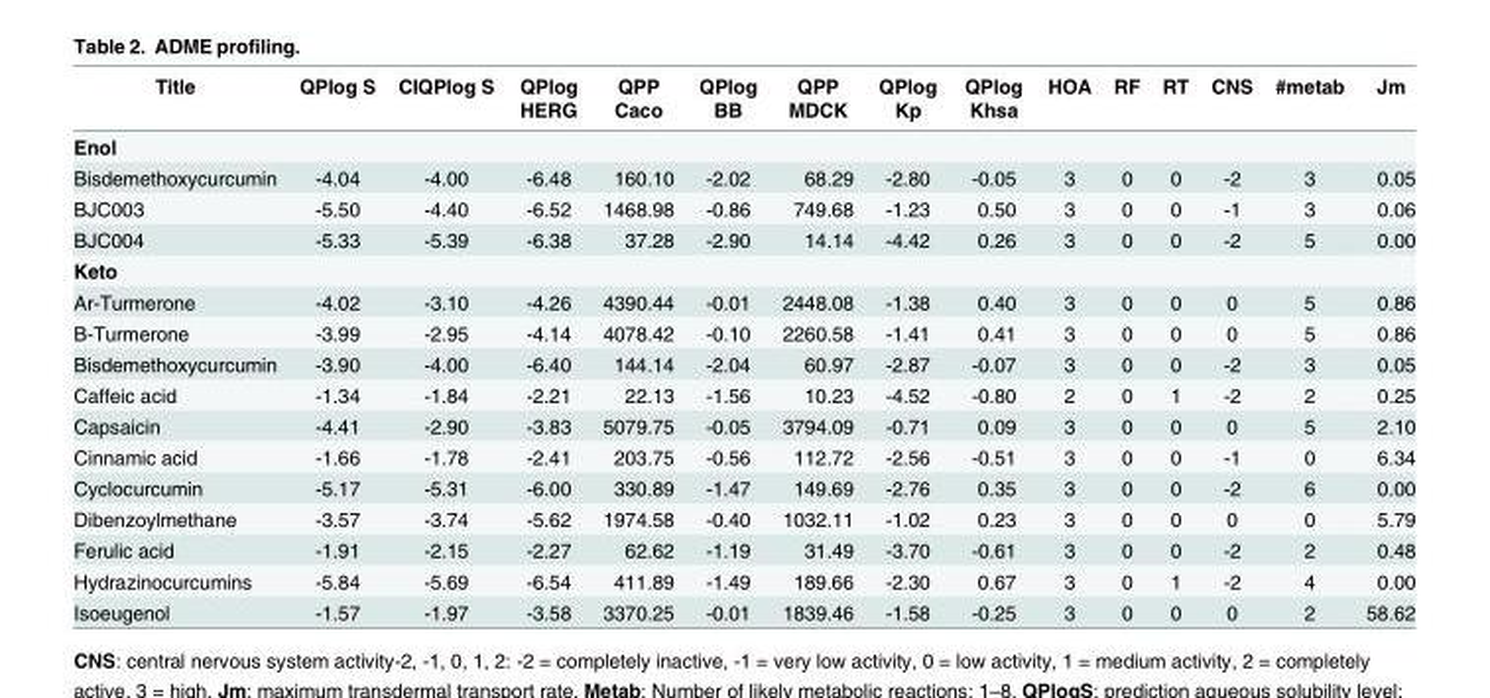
<table><thead><tr><td>Title</td><td>QPlog S</td><td>CIQPlog S</td><td>QPlog HERG</td><td>QPP Caco</td><td>QPlog BB</td><td>QPP MDCK</td><td>QPlog Kp</td><td>QPlog Khsa</td><td>HOA</td><td>RF</td><td>RT</td><td>CNS</td><td>#metab</td><td>Jm</td></tr></thead><tbody><tr><td colspan="15">Enol</td></tr><tr><td>Bisdemethoxycurcumin</td><td>-4.04</td><td>-4.00</td><td>-6.48</td><td>160.10</td><td>-2.02</td><td>68.29</td><td>-2.80</td><td>-0.05</td><td>3</td><td>0</td><td>0</td><td>-2</td><td>3</td><td>0.05</td></tr><tr><td>BJC003</td><td>-5.50</td><td>-4.40</td><td>-6.52</td><td>1468.98</td><td>-0.86</td><td>749.68</td><td>-1.23</td><td>0.50</td><td>3</td><td>0</td><td>0</td><td>-1</td><td>3</td><td>0.06</td></tr><tr><td>BJC004</td><td>-5.33</td><td>-5.39</td><td>-6.38</td><td>37.28</td><td>-2.90</td><td>14.14</td><td>-4.42</td><td>0.26</td><td>3</td><td>0</td><td>0</td><td>-2</td><td>5</td><td>0.00</td></tr><tr><td colspan="15">Keto</td></tr><tr><td>Ar-Turmerone</td><td>-4.02</td><td>-3.10</td><td>-4.26</td><td>4390.44</td><td>-0.01</td><td>2448.08</td><td>-1.38</td><td>0.40</td><td>3</td><td>0</td><td>0</td><td>0</td><td>5</td><td>0.86</td></tr><tr><td>B-Turmerone</td><td>-3.99</td><td>-2.95</td><td>-4.14</td><td>4078.42</td><td>-0.10</td><td>2260.58</td><td>-1.41</td><td>0.41</td><td>3</td><td>0</td><td>0</td><td>0</td><td>5</td><td>0.86</td></tr><tr><td>Bisdemethoxycurcumin</td><td>-3.90</td><td>-4.00</td><td>-6.40</td><td>144.14</td><td>-2.04</td><td>60.97</td><td>-2.87</td><td>-0.07</td><td>3</td><td>0</td><td>0</td><td>-2</td><td>3</td><td>0.05</td></tr><tr><td>Caffeic acid</td><td>-1.34</td><td>-1.84</td><td>-2.21</td><td>22.13</td><td>-1.56</td><td>10.23</td><td>-4.52</td><td>-0.80</td><td>2</td><td>0</td><td>1</td><td>-2</td><td>2</td><td>0.25</td></tr><tr><td>Capsaicin</td><td>-4.41</td><td>-2.90</td><td>-3.83</td><td>5079.75</td><td>-0.05</td><td>3794.09</td><td>-0.71</td><td>0.09</td><td>3</td><td>0</td><td>0</td><td>0</td><td>5</td><td>2.10</td></tr><tr><td>Cinnamic acid</td><td>-1.66</td><td>-1.78</td><td>-2.41</td><td>203.75</td><td>-0.56</td><td>112.72</td><td>-2.56</td><td>-0.51</td><td>3</td><td>0</td><td>0</td><td>-1</td><td>0</td><td>6.34</td></tr><tr><td>Cyclocurcumin</td><td>-5.17</td><td>-5.31</td><td>-6.00</td><td>330.89</td><td>-1.47</td><td>149.69</td><td>-2.76</td><td>0.35</td><td>3</td><td>0</td><td>0</td><td>-2</td><td>6</td><td>0.00</td></tr><tr><td>Dibenzoylmethane</td><td>-3.57</td><td>-3.74</td><td>-5.62</td><td>1974.58</td><td>-0.40</td><td>1032.11</td><td>-1.02</td><td>0.23</td><td>3</td><td>0</td><td>0</td><td>0</td><td>0</td><td>5.79</td></tr><tr><td>Ferulic acid</td><td>-1.91</td><td>-2.15</td><td>-2.27</td><td>62.62</td><td>-1.19</td><td>31.49</td><td>-3.70</td><td>-0.61</td><td>3</td><td>0</td><td>0</td><td>-2</td><td>2</td><td>0.48</td></tr><tr><td>Hydrazinocurcumins</td><td>-5.84</td><td>-5.69</td><td>-6.54</td><td>411.89</td><td>-1.49</td><td>189.66</td><td>-2.30</td><td>0.67</td><td>3</td><td>0</td><td>1</td><td>-2</td><td>4</td><td>0.00</td></tr><tr><td>Isoeugenol</td><td>-1.57</td><td>-1.97</td><td>-3.58</td><td>3370.25</td><td>-0.01</td><td>1839.46</td><td>-1.58</td><td>-0.25</td><td>3</td><td>0</td><td>0</td><td>0</td><td>2</td><td>58.62</td></tr></tbody></table>